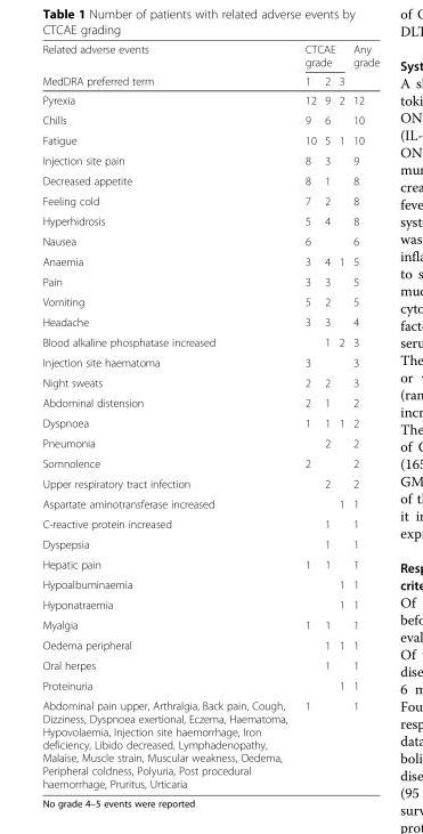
<table><thead><tr><td rowspan="2">Related adverse events MedDRA preferred term</td><td colspan="3">CTCAE grade</td><td rowspan="2">Any grade</td></tr><tr><td>1</td><td>2</td><td>3</td></tr></thead><tbody><tr><td>Pyrexia</td><td>12</td><td>9</td><td>2</td><td>12</td></tr><tr><td>Chills</td><td>9</td><td>6</td><td></td><td>10</td></tr><tr><td>Fatigue</td><td>10</td><td>5</td><td>1</td><td>10</td></tr><tr><td>Injection site pain</td><td>8</td><td>3</td><td></td><td>9</td></tr><tr><td>Decreased appetite</td><td>8</td><td>1</td><td></td><td>8</td></tr><tr><td>Feeling cold</td><td>7</td><td>2</td><td></td><td>8</td></tr><tr><td>Hyperhidrosis</td><td>5</td><td>4</td><td></td><td>8</td></tr><tr><td>Nausea</td><td>6</td><td></td><td></td><td>6</td></tr><tr><td>Anaemia</td><td>3</td><td>4</td><td>1</td><td>5</td></tr><tr><td>Pain</td><td>3</td><td>3</td><td></td><td>5</td></tr><tr><td>Vomiting</td><td>5</td><td>2</td><td></td><td>5</td></tr><tr><td>Headache</td><td>3</td><td>3</td><td></td><td>4</td></tr><tr><td>Blood alkaline phosphatase increased</td><td></td><td>1</td><td>2</td><td>3</td></tr><tr><td>Injection site haematoma</td><td>3</td><td></td><td></td><td>3</td></tr><tr><td>Night sweats</td><td>2</td><td>2</td><td></td><td>3</td></tr><tr><td>Abdominal distension</td><td>2</td><td>1</td><td></td><td>2</td></tr><tr><td>Dyspnoea</td><td>1</td><td>1</td><td>1</td><td>2</td></tr><tr><td>Pneumonia</td><td></td><td>2</td><td></td><td>2</td></tr><tr><td>Somnolence</td><td>2</td><td></td><td></td><td>2</td></tr><tr><td>Upper respiratory tract infection</td><td></td><td>2</td><td></td><td>2</td></tr><tr><td>Aspartate aminotransferase increased</td><td></td><td></td><td>1</td><td>1</td></tr><tr><td>C-reactive protein increased</td><td></td><td>1</td><td></td><td>1</td></tr><tr><td>Dyspepsia</td><td></td><td>1</td><td></td><td>1</td></tr><tr><td>Hepatic pain</td><td>1</td><td>1</td><td></td><td>1</td></tr><tr><td>Hypoalbuminaemia</td><td></td><td></td><td>1</td><td>1</td></tr><tr><td>Hyponatraemia</td><td></td><td></td><td>1</td><td>1</td></tr><tr><td>Myalgia</td><td>1</td><td>1</td><td></td><td>1</td></tr><tr><td>Oedema peripheral</td><td></td><td>1</td><td>1</td><td>1</td></tr><tr><td>Oral herpes</td><td></td><td>1</td><td></td><td>1</td></tr><tr><td>Proteinuria</td><td></td><td></td><td>1</td><td>1</td></tr><tr><td>Abdominal pain upper, Arthralgia, Back pain, Cough, Dizziness, Dyspnoea exertional, Eczema, Haematoma, Hypovolaemia, Injection site haemorrhage, Iron deficiency, Libido decreased, Lymphadenopathy, Malaise, Muscle strain, Muscular weakness, Oedema, Peripheral coldness, Polyuria, Post procedural haemorrhage, Pruritus, Urticaria</td><td>1</td><td></td><td></td><td>1</td></tr></tbody></table>